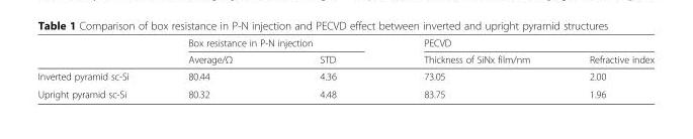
<table><thead><tr><td rowspan="2"></td><td colspan="2">Box resistance in P-N injection</td><td colspan="2">PECVD</td></tr><tr><td>Average/Ω</td><td>STD</td><td>Thickness of SiNx film/nm</td><td>Refractive index</td></tr></thead><tbody><tr><td>Inverted pyramid sc-Si</td><td>80.44</td><td>4.36</td><td>73.05</td><td>2.00</td></tr><tr><td>Upright pyramid sc-Si</td><td>80.32</td><td>4.48</td><td>83.75</td><td>1.96</td></tr></tbody></table>